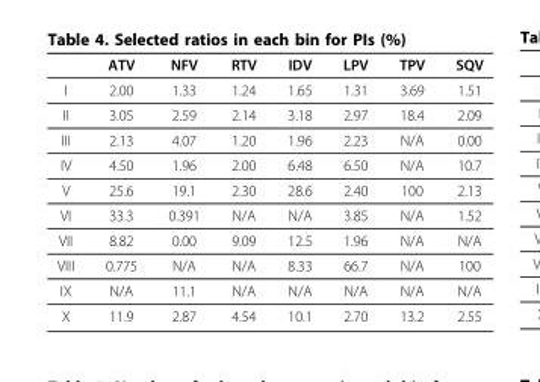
<table><thead><tr><td></td><td>ATV</td><td>NFV</td><td>RTV</td><td>IDV</td><td>LPV</td><td>TPV</td><td>SQV</td></tr></thead><tbody><tr><td>I</td><td>2.00</td><td>1.33</td><td>1.24</td><td>1.65</td><td>1.31</td><td>3.69</td><td>1.51</td></tr><tr><td>II</td><td>3.05</td><td>2.59</td><td>2.14</td><td>3.18</td><td>2.97</td><td>18.4</td><td>2.09</td></tr><tr><td>III</td><td>2.13</td><td>4.07</td><td>1.20</td><td>1.96</td><td>2.23</td><td>N/A</td><td>0.00</td></tr><tr><td>IV</td><td>4.50</td><td>1.96</td><td>2.00</td><td>6.48</td><td>6.50</td><td>N/A</td><td>10.7</td></tr><tr><td>V</td><td>25.6</td><td>19.1</td><td>2.30</td><td>28.6</td><td>2.40</td><td>100</td><td>2.13</td></tr><tr><td>VI</td><td>33.3</td><td>0.391</td><td>N/A</td><td>N/A</td><td>3.85</td><td>N/A</td><td>1.52</td></tr><tr><td>VII</td><td>8.82</td><td>0.00</td><td>9.09</td><td>12.5</td><td>1.96</td><td>N/A</td><td>N/A</td></tr><tr><td>VIII</td><td>0.775</td><td>N/A</td><td>N/A</td><td>8.33</td><td>66.7</td><td>N/A</td><td>100</td></tr><tr><td>IX</td><td>N/A</td><td>11.1</td><td>N/A</td><td>N/A</td><td>N/A</td><td>N/A</td><td>N/A</td></tr><tr><td>X</td><td>11.9</td><td>2.87</td><td>4.54</td><td>10.1</td><td>2.70</td><td>13.2</td><td>2.55</td></tr></tbody></table>